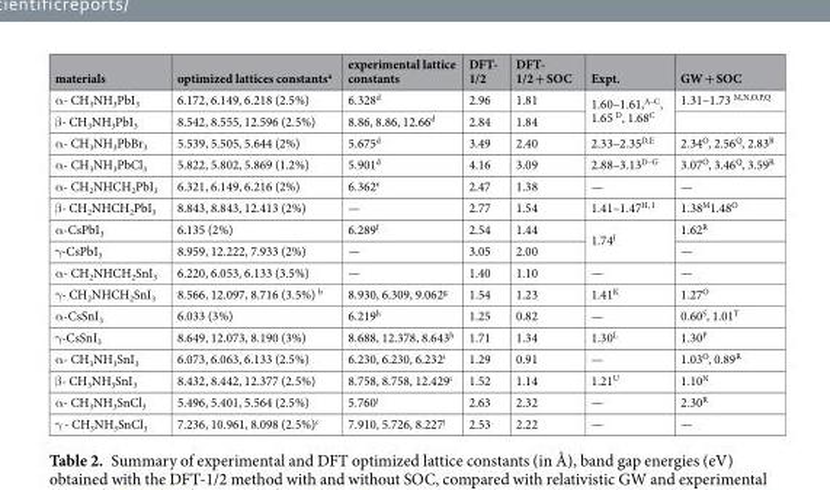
<table><thead><tr><td>materials</td><td>optimized lattices constants<sup>a</sup></td><td>experimental lattice constants</td><td>DFT- 1/2</td><td>DFT- 1/2 + SOC</td><td>Expt.</td><td>GW + SOC</td></tr></thead><tbody><tr><td>α- CH<sub>3</sub>NH<sub>3</sub>PbI<sub>3</sub></td><td>6.172, 6.149, 6.218 (2.5%)</td><td>6.328<sup>d</sup></td><td>2.96</td><td>1.81</td><td rowspan="2">1.60–1.61,<sup>A–C</sup>, 1.65 <sup>D</sup>, 1.68<sup>C</sup></td><td>1.31–1.73 <sup>M,N,O,P,Q</sup></td></tr><tr><td>β- CH<sub>3</sub>NH<sub>3</sub>PbI<sub>3</sub></td><td>8.542, 8.555, 12.596 (2.5%)</td><td>8.86, 8.86, 12.66<sup>d</sup></td><td>2.84</td><td>1.84</td><td></td></tr><tr><td>α- CH<sub>3</sub>NH<sub>3</sub>PbBr<sub>3</sub></td><td>5.539, 5.505, 5.644 (2%)</td><td>5.675<sup>d</sup></td><td>3.49</td><td>2.40</td><td>2.33–2.35<sup>D,E</sup></td><td>2.34<sup>O</sup>, 2.56<sup>Q</sup>, 2.83<sup>R</sup></td></tr><tr><td>α- CH<sub>3</sub>NH<sub>3</sub>PbCl<sub>3</sub></td><td>5.822, 5.802, 5.869 (1.2%)</td><td>5.901<sup>d</sup></td><td>4.16</td><td>3.09</td><td>2.88–3.13<sup>D–G</sup></td><td>3.07<sup>O</sup>, 3.46<sup>Q</sup>, 3.59<sup>R</sup></td></tr><tr><td>α- CH<sub>2</sub>NHCH<sub>2</sub>PbI<sub>3</sub></td><td>6.321, 6.149, 6.216 (2%)</td><td>6.362<sup>e</sup></td><td>2.47</td><td>1.38</td><td>—</td><td>—</td></tr><tr><td>β- CH<sub>2</sub>NHCH<sub>2</sub>PbI<sub>3</sub></td><td>8.843, 8.843, 12.413 (2%)</td><td>—</td><td>2.77</td><td>1.54</td><td>1.41–1.47<sup>H, I</sup></td><td>1.38<sup>M</sup>1.48<sup>O</sup></td></tr><tr><td>α-CsPbI<sub>3</sub></td><td>6.135 (2%)</td><td>6.289<sup>f</sup></td><td>2.54</td><td>1.44</td><td rowspan="2">1.74<sup>J</sup></td><td>1.62<sup>R</sup></td></tr><tr><td>γ-CsPbI<sub>3</sub></td><td>8.959, 12.222, 7.933 (2%)</td><td>—</td><td>3.05</td><td>2.00</td><td>—</td></tr><tr><td>α- CH<sub>2</sub>NHCH<sub>2</sub>SnI<sub>3</sub></td><td>6.220, 6.053, 6.133 (3.5%)</td><td>—</td><td>1.40</td><td>1.10</td><td>—</td><td>—</td></tr><tr><td>γ- CH<sub>2</sub>NHCH<sub>2</sub>SnI<sub>3</sub></td><td>8.566, 12.097, 8.716 (3.5%) <sup>b</sup></td><td>8.930, 6.309, 9.062<sup>g</sup></td><td>1.54</td><td>1.23</td><td>1.41<sup>K</sup></td><td>1.27<sup>O</sup></td></tr><tr><td>α-CsSnI<sub>3</sub></td><td>6.033 (3%)</td><td>6.219<sup>h</sup></td><td>1.25</td><td>0.82</td><td>—</td><td>0.60<sup>S</sup>, 1.01<sup>T</sup></td></tr><tr><td>γ-CsSnI<sub>3</sub></td><td>8.649, 12.073, 8.190 (3%)</td><td>8.688, 12.378, 8.643<sup>h</sup></td><td>1.71</td><td>1.34</td><td>1.30<sup>L</sup></td><td>1.30<sup>P</sup></td></tr><tr><td>α- CH<sub>3</sub>NH<sub>3</sub>SnI<sub>3</sub></td><td>6.073, 6.063, 6.133 (2.5%)</td><td>6.230, 6.230, 6.232<sup>i</sup></td><td>1.29</td><td>0.91</td><td>—</td><td>1.03<sup>O</sup>, 0.89<sup>R</sup></td></tr><tr><td>β- CH<sub>3</sub>NH<sub>3</sub>SnI<sub>3</sub></td><td>8.432, 8.442, 12.377 (2.5%)</td><td>8.758, 8.758, 12.429<sup>i</sup></td><td>1.52</td><td>1.14</td><td>1.21<sup>U</sup></td><td>1.10<sup>N</sup></td></tr><tr><td>α- CH<sub>3</sub>NH<sub>3</sub>SnCl<sub>3</sub></td><td>5.496, 5.401, 5.564 (2.5%)</td><td>5.760<sup>j</sup></td><td>2.63</td><td>2.32</td><td>—</td><td>2.30<sup>R</sup></td></tr><tr><td>γ - CH<sub>3</sub>NH<sub>3</sub>SnCl<sub>3</sub></td><td>7.236, 10.961, 8.098 (2.5%)<sup>c</sup></td><td>7.910, 5.726, 8.227<sup>j</sup></td><td>2.53</td><td>2.22</td><td>—</td><td>—</td></tr></tbody></table>